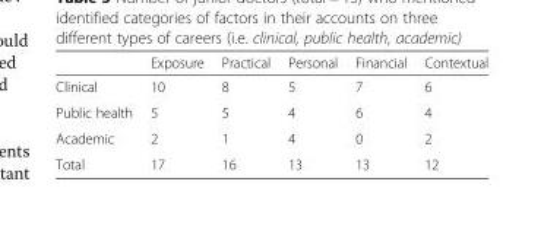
<table><thead><tr><td></td><td>Exposure</td><td>Practical</td><td>Personal</td><td>Financial</td><td>Contextual</td></tr></thead><tbody><tr><td>Clinical</td><td>10</td><td>8</td><td>5</td><td>7</td><td>6</td></tr><tr><td>Public health</td><td>5</td><td>5</td><td>4</td><td>6</td><td>4</td></tr><tr><td>Academic</td><td>2</td><td>1</td><td>4</td><td>0</td><td>2</td></tr><tr><td>Total</td><td>17</td><td>16</td><td>13</td><td>13</td><td>12</td></tr></tbody></table>